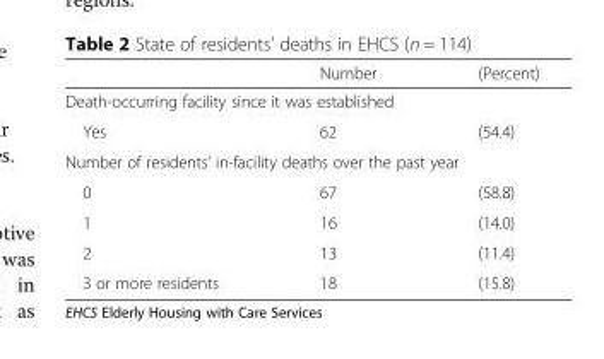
<table><thead><tr><td></td><td>Number</td><td>(Percent)</td></tr></thead><tbody><tr><td colspan="3">Death-occurring facility since it was established</td></tr><tr><td>Yes</td><td>62</td><td>(54.4)</td></tr><tr><td colspan="3">Number of residents’ in-facility deaths over the past year</td></tr><tr><td>0</td><td>67</td><td>(58.8)</td></tr><tr><td>1</td><td>16</td><td>(14.0)</td></tr><tr><td>2</td><td>13</td><td>(11.4)</td></tr><tr><td>3 or more residents</td><td>18</td><td>(15.8)</td></tr></tbody></table>